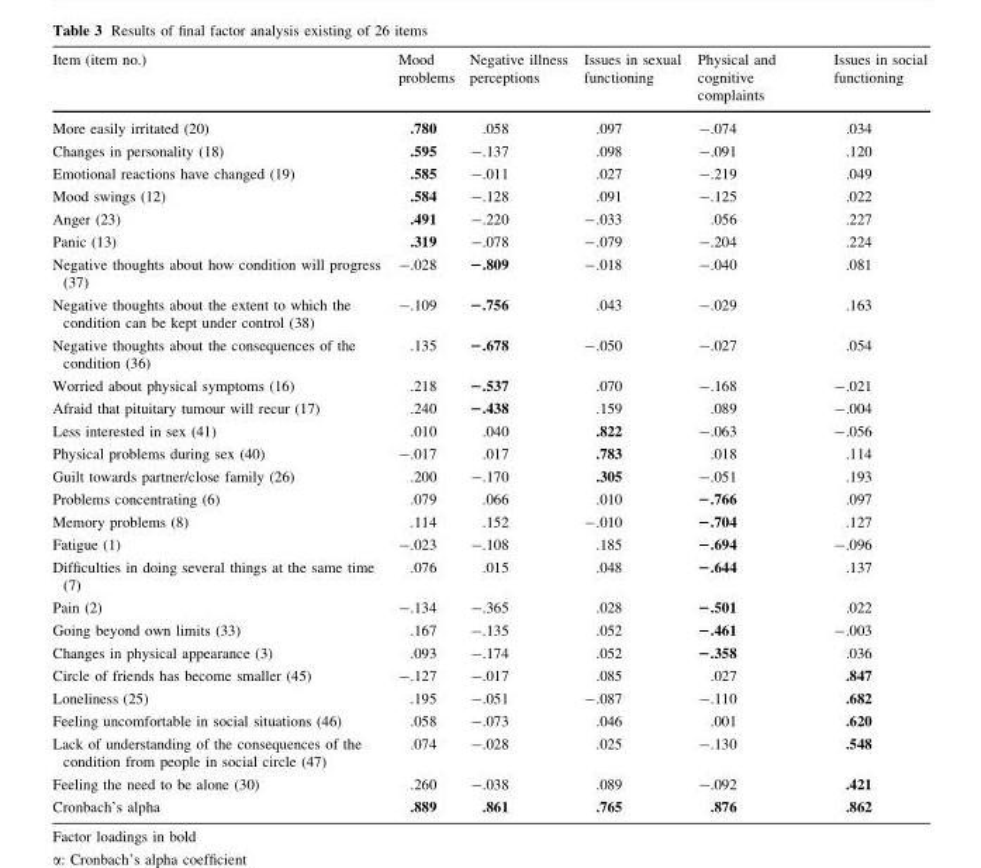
<table><thead><tr><td>Item (item no.)</td><td>Mood problems</td><td>Negative illness perceptions</td><td>Issues in sexual functioning</td><td>Physical and cognitive complaints</td><td>Issues in social functioning</td></tr></thead><tbody><tr><td>More easily irritated (20)</td><td>.780</td><td>.058</td><td>.097</td><td>-.074</td><td>.034</td></tr><tr><td>Changes in personality (18)</td><td>.595</td><td>-.137</td><td>.098</td><td>-.091</td><td>.120</td></tr><tr><td>Emotional reactions have changed (19)</td><td>.585</td><td>-.011</td><td>.027</td><td>-.219</td><td>.049</td></tr><tr><td>Mood swings (12)</td><td>.584</td><td>-.128</td><td>.091</td><td>-.125</td><td>.022</td></tr><tr><td>Anger (23)</td><td>.491</td><td>-.220</td><td>-.033</td><td>.056</td><td>.227</td></tr><tr><td>Panic (13)</td><td>.319</td><td>-.078</td><td>-.079</td><td>-.204</td><td>.224</td></tr><tr><td>Negative thoughts about how condition will progress (37)</td><td>-.028</td><td>−.809</td><td>-.018</td><td>-.040</td><td>.081</td></tr><tr><td>Negative thoughts about the extent to which the condition can be kept under control (38)</td><td>-.109</td><td>−.756</td><td>.043</td><td>-.029</td><td>.163</td></tr><tr><td>Negative thoughts about the consequences of the condition (36)</td><td>.135</td><td>−.678</td><td>-.050</td><td>-.027</td><td>.054</td></tr><tr><td>Worried about physical symptoms (16)</td><td>.218</td><td>−.537</td><td>.070</td><td>-.168</td><td>-.021</td></tr><tr><td>Afraid that pituitary tumour will recur (17)</td><td>.240</td><td>−.438</td><td>.159</td><td>.089</td><td>-.004</td></tr><tr><td>Less interested in sex (41)</td><td>.010</td><td>.040</td><td>.822</td><td>-.063</td><td>-.056</td></tr><tr><td>Physical problems during sex (40)</td><td>-.017</td><td>.017</td><td>.783</td><td>.018</td><td>.114</td></tr><tr><td>Guilt towards partner/close family (26)</td><td>.200</td><td>-.170</td><td>.305</td><td>-.051</td><td>.193</td></tr><tr><td>Problems concentrating (6)</td><td>.079</td><td>.066</td><td>.010</td><td>−.766</td><td>.097</td></tr><tr><td>Memory problems (8)</td><td>.114</td><td>.152</td><td>-.010</td><td>−.704</td><td>.127</td></tr><tr><td>Fatigue (1)</td><td>-.023</td><td>-.108</td><td>.185</td><td>−.694</td><td>-.096</td></tr><tr><td>Difficulties in doing several things at the same time (7)</td><td>.076</td><td>.015</td><td>.048</td><td>−.644</td><td>.137</td></tr><tr><td>Pain (2)</td><td>-.134</td><td>-.365</td><td>.028</td><td>−.501</td><td>.022</td></tr><tr><td>Going beyond own limits (33)</td><td>.167</td><td>-.135</td><td>.052</td><td>−.461</td><td>-.003</td></tr><tr><td>Changes in physical appearance (3)</td><td>.093</td><td>-.174</td><td>.052</td><td>−.358</td><td>.036</td></tr><tr><td>Circle of friends has become smaller (45)</td><td>-.127</td><td>-.017</td><td>.085</td><td>.027</td><td>.847</td></tr><tr><td>Loneliness (25)</td><td>.195</td><td>-.051</td><td>-.087</td><td>-.110</td><td>.682</td></tr><tr><td>Feeling uncomfortable in social situations (46)</td><td>.058</td><td>-.073</td><td>.046</td><td>.001</td><td>.620</td></tr><tr><td>Lack of understanding of the consequences of the condition from people in social circle (47)</td><td>.074</td><td>-.028</td><td>.025</td><td>-.130</td><td>.548</td></tr><tr><td>Feeling the need to be alone (30)</td><td>.260</td><td>-.038</td><td>.089</td><td>-.092</td><td>.421</td></tr><tr><td>Cronbach’s alpha</td><td>.889</td><td>.861</td><td>.765</td><td>.876</td><td>.862</td></tr></tbody></table>